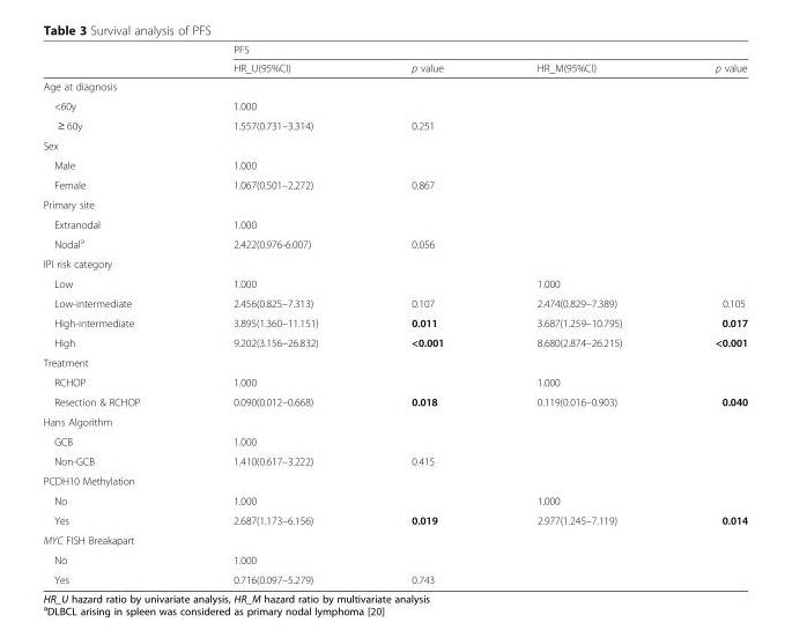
<table><thead><tr><td rowspan="2"></td><td colspan="4">PFS</td></tr><tr><td>HR_U(95%CI)</td><td>p value</td><td>HR_M(95%CI)</td><td>p value</td></tr></thead><tbody><tr><td colspan="5">Age at diagnosis</td></tr><tr><td>&lt;60y</td><td>1.000</td><td></td><td></td><td></td></tr><tr><td>≥ 60y</td><td>1.557(0.731–3.314)</td><td>0.251</td><td></td><td></td></tr><tr><td colspan="5">Sex</td></tr><tr><td>Male</td><td>1.000</td><td></td><td></td><td></td></tr><tr><td>Female</td><td>1.067(0.501–2.272)</td><td>0.867</td><td></td><td></td></tr><tr><td colspan="5">Primary site</td></tr><tr><td>Extranodal</td><td>1.000</td><td></td><td></td><td></td></tr><tr><td>Nodal<sup>a</sup></td><td>2.422(0.976-6.007)</td><td>0.056</td><td></td><td></td></tr><tr><td colspan="5">IPI risk category</td></tr><tr><td>Low</td><td>1.000</td><td></td><td>1.000</td><td></td></tr><tr><td>Low-intermediate</td><td>2.456(0.825–7.313)</td><td>0.107</td><td>2.474(0.829–7.389)</td><td>0.105</td></tr><tr><td>High-intermediate</td><td>3.895(1.360–11.151)</td><td>0.011</td><td>3.687(1.259–10.795)</td><td>0.017</td></tr><tr><td>High</td><td>9.202(3.156–26.832)</td><td>&lt;0.001</td><td>8.680(2.874–26.215)</td><td>&lt;0.001</td></tr><tr><td colspan="5">Treatment</td></tr><tr><td>RCHOP</td><td>1.000</td><td></td><td>1.000</td><td></td></tr><tr><td>Resection &amp; RCHOP</td><td>0.090(0.012–0.668)</td><td>0.018</td><td>0.119(0.016–0.903)</td><td>0.040</td></tr><tr><td colspan="5">Hans Algorithm</td></tr><tr><td>GCB</td><td>1.000</td><td></td><td></td><td></td></tr><tr><td>Non-GCB</td><td>1.410(0.617–3.222)</td><td>0.415</td><td></td><td></td></tr><tr><td colspan="5">PCDH10 Methylation</td></tr><tr><td>No</td><td>1.000</td><td></td><td>1.000</td><td></td></tr><tr><td>Yes</td><td>2.687(1.173–6.156)</td><td>0.019</td><td>2.977(1.245–7.119)</td><td>0.014</td></tr><tr><td colspan="5">MYC FISH Breakapart</td></tr><tr><td>No</td><td>1.000</td><td></td><td></td><td></td></tr><tr><td>Yes</td><td>0.716(0.097–5.279)</td><td>0.743</td><td></td><td></td></tr></tbody></table>